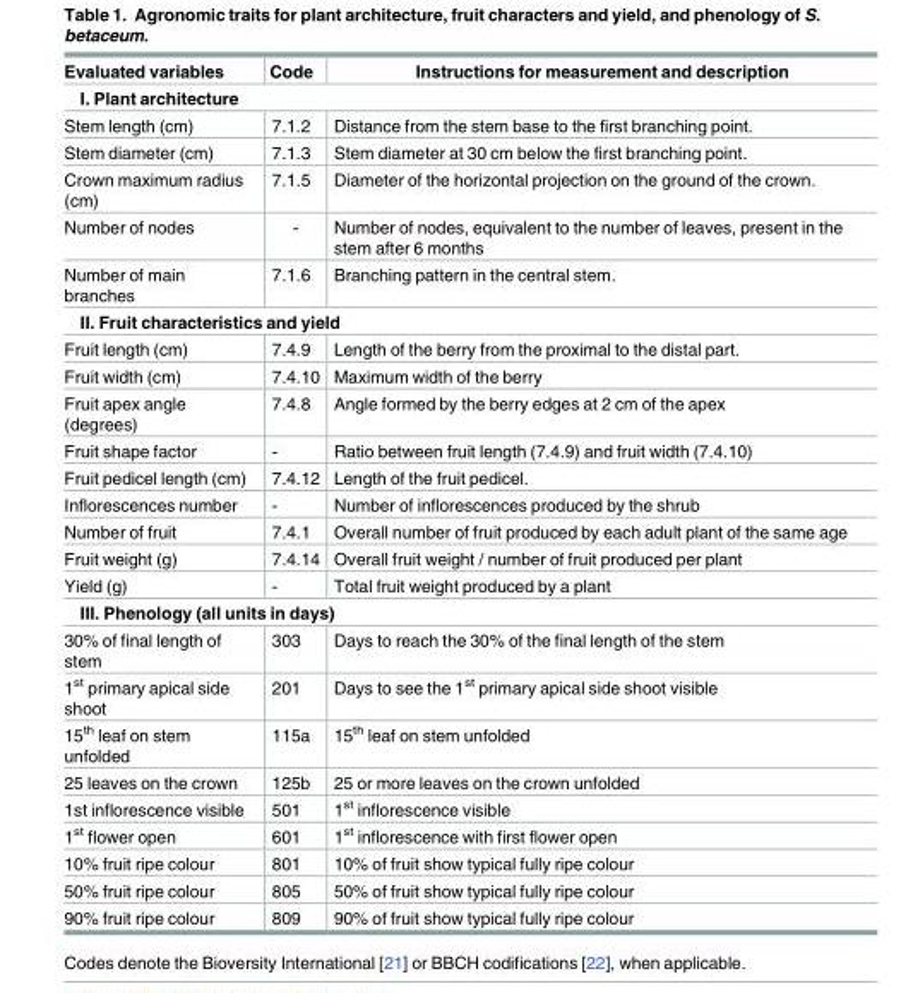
<table><thead><tr><td>Evaluated variables</td><td>Code</td><td>Instructions for measurement and description</td></tr></thead><tbody><tr><td colspan="3">I. Plant architecture</td></tr><tr><td>Stem length (cm)</td><td>7.1.2</td><td>Distance from the stem base to the first branching point.</td></tr><tr><td>Stem diameter (cm)</td><td>7.1.3</td><td>Stem diameter at 30 cm below the first branching point.</td></tr><tr><td>Crown maximum radius (cm)</td><td>7.1.5</td><td>Diameter of the horizontal projection on the ground of the crown.</td></tr><tr><td>Number of nodes</td><td>-</td><td>Number of nodes, equivalent to the number of leaves, present in the stem after 6 months</td></tr><tr><td>Number of main branches</td><td>7.1.6</td><td>Branching pattern in the central stem.</td></tr><tr><td colspan="3">II. Fruit characteristics and yield</td></tr><tr><td>Fruit length (cm)</td><td>7.4.9</td><td>Length of the berry from the proximal to the distal part.</td></tr><tr><td>Fruit width (cm)</td><td>7.4.10</td><td>Maximum width of the berry</td></tr><tr><td>Fruit apex angle (degrees)</td><td>7.4.8</td><td>Angle formed by the berry edges at 2 cm of the apex</td></tr><tr><td>Fruit shape factor</td><td>-</td><td>Ratio between fruit length (7.4.9) and fruit width (7.4.10)</td></tr><tr><td>Fruit pedicel length (cm)</td><td>7.4.12</td><td>Length of the fruit pedicel.</td></tr><tr><td>Inflorescences number</td><td>-</td><td>Number of inflorescences produced by the shrub</td></tr><tr><td>Number of fruit</td><td>7.4.1</td><td>Overall number of fruit produced by each adult plant of the same age</td></tr><tr><td>Fruit weight (g)</td><td>7.4.14</td><td>Overall fruit weight / number of fruit produced per plant</td></tr><tr><td>Yield (g)</td><td>-</td><td>Total fruit weight produced by a plant</td></tr><tr><td colspan="3">III. Phenology (all units in days)</td></tr><tr><td>30% of final length of stem</td><td>303</td><td>Days to reach the 30% of the final length of the stem</td></tr><tr><td>1<sup>st</sup> primary apical side shoot</td><td>201</td><td>Days to see the 1<sup>st</sup> primary apical side shoot visible</td></tr><tr><td>15<sup>th</sup> leaf on stem unfolded</td><td>115a</td><td>15<sup>th</sup> leaf on stem unfolded</td></tr><tr><td>25 leaves on the crown</td><td>125b</td><td>25 or more leaves on the crown unfolded</td></tr><tr><td>1st inflorescence visible</td><td>501</td><td>1<sup>st</sup> inflorescence visible</td></tr><tr><td>1<sup>st</sup> flower open</td><td>601</td><td>1<sup>st</sup> inflorescence with first flower open</td></tr><tr><td>10% fruit ripe colour</td><td>801</td><td>10% of fruit show typical fully ripe colour</td></tr><tr><td>50% fruit ripe colour</td><td>805</td><td>50% of fruit show typical fully ripe colour</td></tr><tr><td>90% fruit ripe colour</td><td>809</td><td>90% of fruit show typical fully ripe colour</td></tr></tbody></table>